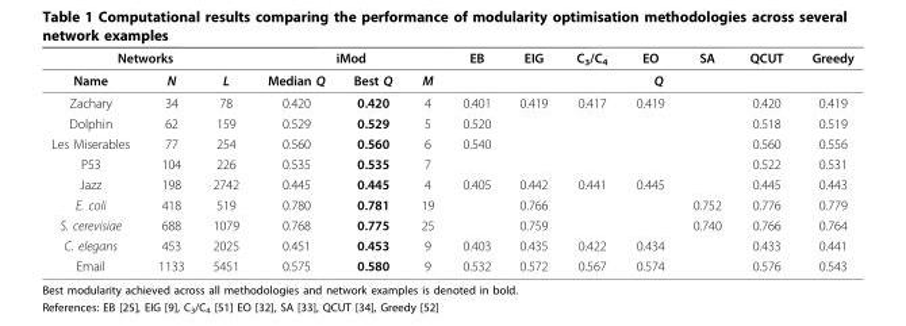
<table><thead><tr><td colspan="3">Networks</td><td colspan="3">iMod</td><td>EB</td><td>EIG</td><td>C<sub>3</sub>/C<sub>4</sub></td><td>EO</td><td>SA</td><td>QCUT</td><td>Greedy</td></tr><tr><td>Name</td><td>N</td><td>L</td><td>Median Q</td><td>Best Q</td><td>M</td><td colspan="7">Q</td></tr></thead><tbody><tr><td>Zachary</td><td>34</td><td>78</td><td>0.420</td><td>0.420</td><td>4</td><td>0.401</td><td>0.419</td><td>0.417</td><td>0.419</td><td></td><td>0.420</td><td>0.419</td></tr><tr><td>Dolphin</td><td>62</td><td>159</td><td>0.529</td><td>0.529</td><td>5</td><td>0.520</td><td></td><td></td><td></td><td></td><td>0.518</td><td>0.519</td></tr><tr><td>Les Miserables</td><td>77</td><td>254</td><td>0.560</td><td>0.560</td><td>6</td><td>0.540</td><td></td><td></td><td></td><td></td><td>0.560</td><td>0.556</td></tr><tr><td>P53</td><td>104</td><td>226</td><td>0.535</td><td>0.535</td><td>7</td><td></td><td></td><td></td><td></td><td></td><td>0.522</td><td>0.531</td></tr><tr><td>Jazz</td><td>198</td><td>2742</td><td>0.445</td><td>0.445</td><td>4</td><td>0.405</td><td>0.442</td><td>0.441</td><td>0.445</td><td></td><td>0.445</td><td>0.443</td></tr><tr><td>E. coli</td><td>418</td><td>519</td><td>0.780</td><td>0.781</td><td>19</td><td></td><td>0.766</td><td></td><td></td><td>0.752</td><td>0.776</td><td>0.779</td></tr><tr><td>S. cerevisiae</td><td>688</td><td>1079</td><td>0.768</td><td>0.775</td><td>25</td><td></td><td>0.759</td><td></td><td></td><td>0.740</td><td>0.766</td><td>0.764</td></tr><tr><td>C. elegans</td><td>453</td><td>2025</td><td>0.451</td><td>0.453</td><td>9</td><td>0.403</td><td>0.435</td><td>0.422</td><td>0.434</td><td></td><td>0.433</td><td>0.441</td></tr><tr><td>Email</td><td>1133</td><td>5451</td><td>0.575</td><td>0.580</td><td>9</td><td>0.532</td><td>0.572</td><td>0.567</td><td>0.574</td><td></td><td>0.576</td><td>0.543</td></tr></tbody></table>